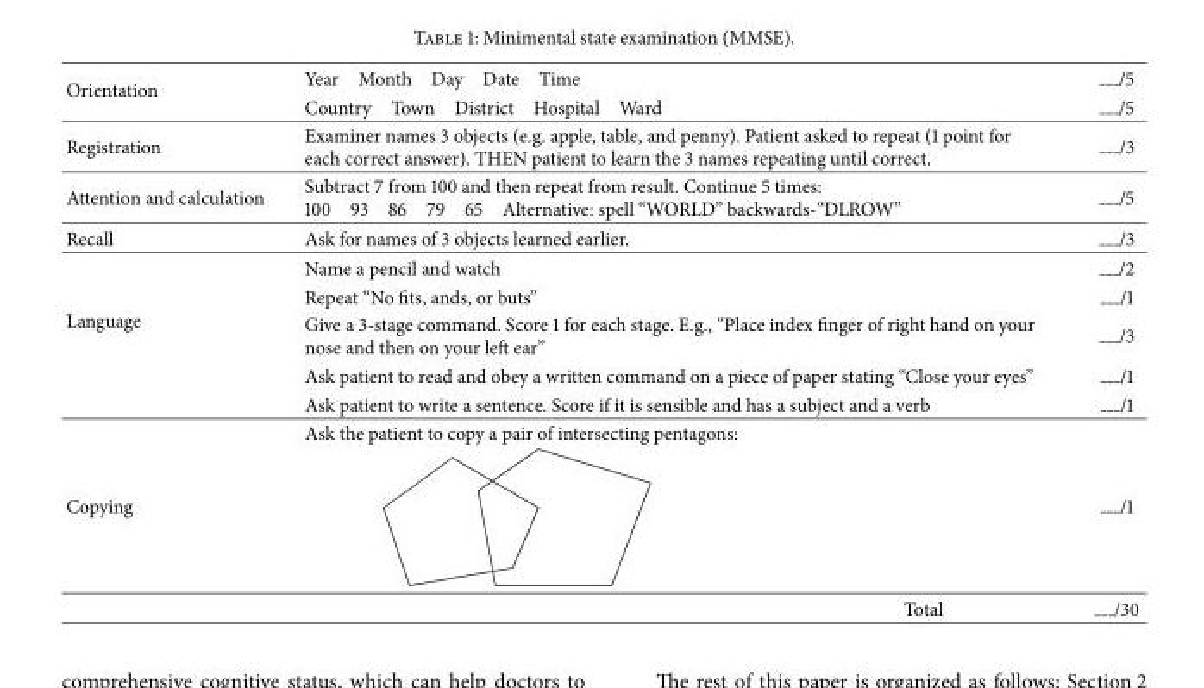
<table><tbody><tr><td rowspan="2">Orientation</td><td>Year Month Day Date Time</td><td>/5</td></tr><tr><td>Country Town District Hospital Ward</td><td>/5</td></tr><tr><td>Registration</td><td>Examiner names 3 objects (e.g. apple, table, and penny). Patient asked to repeat (1 point for each correct answer). THEN patient to learn the 3 names repeating until correct.</td><td>/3</td></tr><tr><td>Attention and calculation</td><td>Subtract 7 from 100 and then repeat from result. Continue 5 times: 100 93 86 79 65 Alternative: spell “WORLD” backwards-“DLROW”</td><td>/5</td></tr><tr><td>Recall</td><td>Ask for names of 3 objects learned earlier.</td><td>/3</td></tr><tr><td rowspan="5">Language</td><td>Name a pencil and watch</td><td>/2</td></tr><tr><td>Repeat “No fits, ands, or buts”</td><td>/1</td></tr><tr><td>Give a 3-stage command. Score 1 for each stage. E.g., “Place index finger of right hand on your nose and then on your left ear”</td><td>/3</td></tr><tr><td>Ask patient to read and obey a written command on a piece of paper stating “Close your eyes”</td><td>/1</td></tr><tr><td>Ask patient to write a sentence. Score if it is sensible and has a subject and a verb</td><td>/1</td></tr><tr><td rowspan="2">Copying</td><td>Ask the patient to copy a pair of intersecting pentagons:</td><td>/1</td></tr><tr><td>Total</td><td>/30</td></tr></tbody></table>